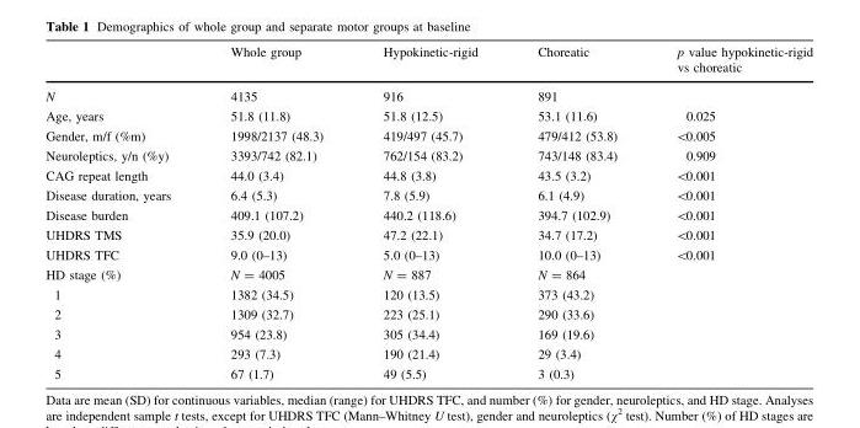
<table><thead><tr><td></td><td>Whole group</td><td>Hypokinetic-rigid</td><td>Choreatic</td><td>p value hypokinetic-rigid vs choreatic</td></tr></thead><tbody><tr><td>N</td><td>4135</td><td>916</td><td>891</td><td></td></tr><tr><td>Age, years</td><td>51.8 (11.8)</td><td>51.8 (12.5)</td><td>53.1 (11.6)</td><td>0.025</td></tr><tr><td>Gender, m/f (%m)</td><td>1998/2137 (48.3)</td><td>419/497 (45.7)</td><td>479/412 (53.8)</td><td>&lt;0.005</td></tr><tr><td>Neuroleptics, y/n (%y)</td><td>3393/742 (82.1)</td><td>762/154 (83.2)</td><td>743/148 (83.4)</td><td>0.909</td></tr><tr><td>CAG repeat length</td><td>44.0 (3.4)</td><td>44.8 (3.8)</td><td>43.5 (3.2)</td><td>&lt;0.001</td></tr><tr><td>Disease duration, years</td><td>6.4 (5.3)</td><td>7.8 (5.9)</td><td>6.1 (4.9)</td><td>&lt;0.001</td></tr><tr><td>Disease burden</td><td>409.1 (107.2)</td><td>440.2 (118.6)</td><td>394.7 (102.9)</td><td>&lt;0.001</td></tr><tr><td>UHDRS TMS</td><td>35.9 (20.0)</td><td>47.2 (22.1)</td><td>34.7 (17.2)</td><td>&lt;0.001</td></tr><tr><td>UHDRS TFC</td><td>9.0 (0–13)</td><td>5.0 (0–13)</td><td>10.0 (0–13)</td><td>&lt;0.001</td></tr><tr><td>HD stage (%)</td><td>N = 4005</td><td>N = 887</td><td>N = 864</td><td></td></tr><tr><td>1</td><td>1382 (34.5)</td><td>120 (13.5)</td><td>373 (43.2)</td><td></td></tr><tr><td>2</td><td>1309 (32.7)</td><td>223 (25.1)</td><td>290 (33.6)</td><td></td></tr><tr><td>3</td><td>954 (23.8)</td><td>305 (34.4)</td><td>169 (19.6)</td><td></td></tr><tr><td>4</td><td>293 (7.3)</td><td>190 (21.4)</td><td>29 (3.4)</td><td></td></tr><tr><td>5</td><td>67 (1.7)</td><td>49 (5.5)</td><td>3 (0.3)</td><td></td></tr></tbody></table>